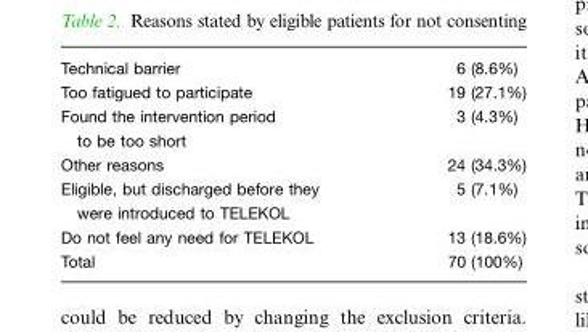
<table><tbody><tr><td>Technical barrier</td><td>6 (8.6%)</td></tr><tr><td>Too fatigued to participate</td><td>19 (27.1%)</td></tr><tr><td>Found the intervention period to be too short</td><td>3 (4.3%)</td></tr><tr><td>Other reasons</td><td>24 (34.3%)</td></tr><tr><td>Eligible, but discharged before they were introduced to TELEKOL</td><td>5 (7.1%)</td></tr><tr><td>Do not feel any need for TELEKOL</td><td>13 (18.6%)</td></tr><tr><td>Total</td><td>70 (100%)</td></tr></tbody></table>